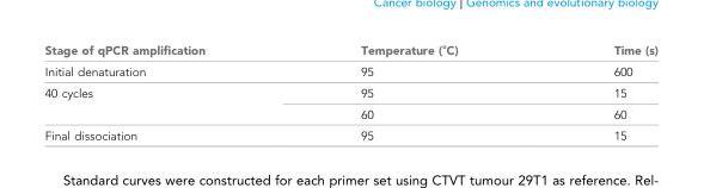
<table><thead><tr><td>Stage of qPCR amplification</td><td>Temperature (˚C)</td><td>Time (s)</td></tr></thead><tbody><tr><td>Initial denaturation</td><td>95</td><td>600</td></tr><tr><td rowspan="2">40 cycles</td><td>95</td><td>15</td></tr><tr><td>60</td><td>60</td></tr><tr><td>Final dissociation</td><td>95</td><td>15</td></tr></tbody></table>